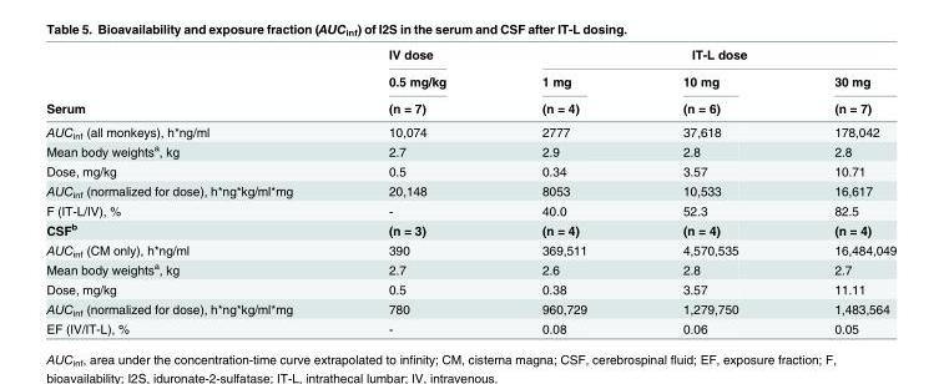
<table><thead><tr><td rowspan="3">Serum</td><td rowspan="3">IV dose 0.5 mg/kg (n = 7)</td><td colspan="3">IT-L dose</td></tr><tr><td rowspan="2">1 mg (n = 4)</td><td rowspan="2">10 mg (n = 6)</td><td rowspan="2">30 mg (n = 7)</td></tr><tr></tr></thead><tbody><tr><td>AUC<sub>inf</sub> (all monkeys), h*ng/ml</td><td>10,074</td><td>2777</td><td>37,618</td><td>178,042</td></tr><tr><td>Mean body weights<sup>a</sup>, kg</td><td>2.7</td><td>2.9</td><td>2.8</td><td>2.8</td></tr><tr><td>Dose, mg/kg</td><td>0.5</td><td>0.34</td><td>3.57</td><td>10.71</td></tr><tr><td>AUC<sub>inf</sub> (normalized for dose), h*ng*kg/ml*mg</td><td>20,148</td><td>8053</td><td>10,533</td><td>16,617</td></tr><tr><td>F (IT-L/IV), %</td><td>-</td><td>40.0</td><td>52.3</td><td>82.5</td></tr><tr><td>CSF<sup>b</sup></td><td>(n = 3)</td><td>(n = 4)</td><td>(n = 4)</td><td>(n = 4)</td></tr><tr><td>AUC<sub>inf</sub> (CM only), h*ng/ml</td><td>390</td><td>369,511</td><td>4,570,535</td><td>16,484,049</td></tr><tr><td>Mean body weights<sup>a</sup>, kg</td><td>2.7</td><td>2.6</td><td>2.8</td><td>2.7</td></tr><tr><td>Dose, mg/kg</td><td>0.5</td><td>0.38</td><td>3.57</td><td>11.11</td></tr><tr><td>AUC<sub>inf</sub> (normalized for dose), h*ng*kg/ml*mg</td><td>780</td><td>960,729</td><td>1,279,750</td><td>1,483,564</td></tr><tr><td>EF (IV/IT-L), %</td><td>-</td><td>0.08</td><td>0.06</td><td>0.05</td></tr></tbody></table>